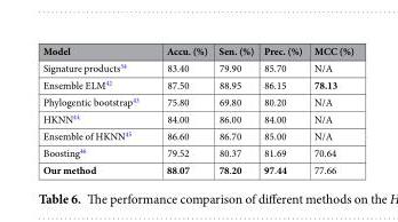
<table><thead><tr><td>Model</td><td>Accu. (%)</td><td>Sen. (%)</td><td>Prec. (%)</td><td>MCC (%)</td></tr></thead><tbody><tr><td>Signature products<sup>34</sup></td><td>83.40</td><td>79.90</td><td>85.70</td><td>N/A</td></tr><tr><td>Ensemble ELM<sup>42</sup></td><td>87.50</td><td>88.95</td><td>86.15</td><td>78.13</td></tr><tr><td>Phylogentic bootstrap<sup>43</sup></td><td>75.80</td><td>69.80</td><td>80.20</td><td>N/A</td></tr><tr><td>HKNN<sup>44</sup></td><td>84.00</td><td>86.00</td><td>84.00</td><td>N/A</td></tr><tr><td>Ensemble of HKNN<sup>45</sup></td><td>86.60</td><td>86.70</td><td>85.00</td><td>N/A</td></tr><tr><td>Boosting<sup>46</sup></td><td>79.52</td><td>80.37</td><td>81.69</td><td>70.64</td></tr><tr><td>Our method</td><td>88.07</td><td>78.20</td><td>97.44</td><td>77.66</td></tr></tbody></table>